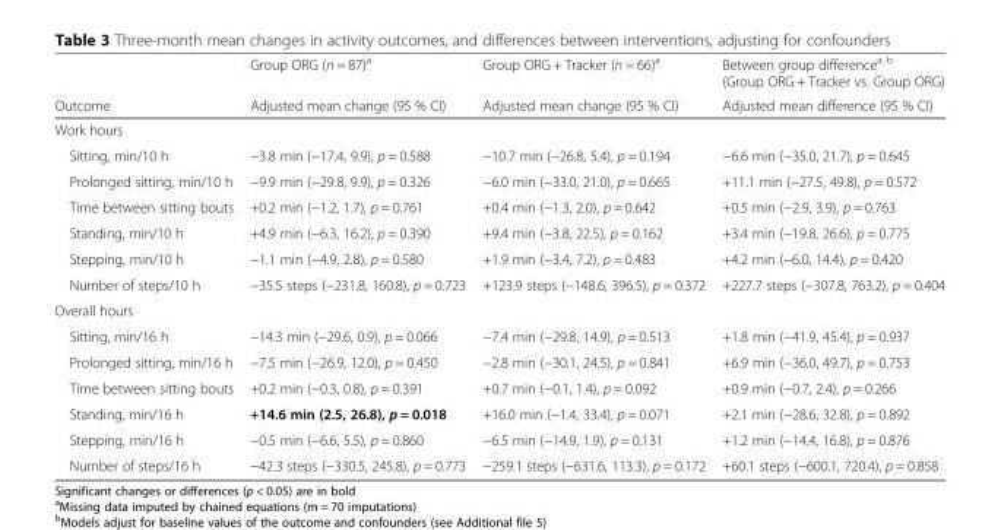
<table><thead><tr><td rowspan="2">Outcome</td><td rowspan="2">Group ORG (n = 87)<sup>a</sup> Adjusted mean change (95 % CI)</td><td rowspan="2">Group ORG + Tracker (n = 66)<sup>a</sup> Adjusted mean change (95 % CI)</td><td rowspan="2">Between group difference<sup>a b</sup> (Group ORG + Tracker vs. Group ORG) Adjusted mean difference (95 % CI)</td></tr><tr></tr></thead><tbody><tr><td colspan="4">Work hours</td></tr><tr><td>Sitting, min/10 h</td><td>−3.8 min (−17.4, 9.9), p = 0.588</td><td>−10.7 min (−26.8, 5.4), p = 0.194</td><td>−6.6 min (−35.0, 21.7), p = 0.645</td></tr><tr><td>Prolonged sitting, min/10 h</td><td>−9.9 min (−29.8, 9.9), p = 0.326</td><td>−6.0 min (−33.0, 21.0), p = 0.665</td><td>+11.1 min (−27.5, 49.8), p = 0.572</td></tr><tr><td>Time between sitting bouts</td><td>+0.2 min (−1.2, 1.7), p = 0.761</td><td>+0.4 min (−1.3, 2.0), p = 0.642</td><td>+0.5 min (−2.9, 3.9), p = 0.763</td></tr><tr><td>Standing, min/10 h</td><td>+4.9 min (−6.3, 16.2), p = 0.390</td><td>+9.4 min (−3.8, 22.5), p = 0.162</td><td>+3.4 min (−19.8, 26.6), p = 0.775</td></tr><tr><td>Stepping, min/10 h</td><td>−1.1 min (−4.9, 2.8), p = 0.580</td><td>+1.9 min (−3.4, 7.2), p = 0.483</td><td>+4.2 min (−6.0, 14.4), p = 0.420</td></tr><tr><td>Number of steps/10 h</td><td>−35.5 steps (−231.8, 160.8), p = 0.723</td><td>+123.9 steps (−148.6, 396.5), p = 0.372</td><td>+227.7 steps (−307.8, 763.2), p = 0.404</td></tr><tr><td colspan="4">Overall hours</td></tr><tr><td>Sitting, min/16 h</td><td>−14.3 min (−29.6, 0.9), p = 0.066</td><td>−7.4 min (−29.8, 14.9), p = 0.513</td><td>+1.8 min (−41.9, 45.4), p = 0.937</td></tr><tr><td>Prolonged sitting, min/16 h</td><td>−7.5 min (−26.9, 12.0), p = 0.450</td><td>−2.8 min (−30.1, 24.5), p = 0.841</td><td>+6.9 min (−36.0, 49.7), p = 0.753</td></tr><tr><td>Time between sitting bouts</td><td>+0.2 min (−0.3, 0.8), p = 0.391</td><td>+0.7 min (−0.1, 1.4), p = 0.092</td><td>+0.9 min (−0.7, 2.4), p = 0.266</td></tr><tr><td>Standing, min/16 h</td><td>+14.6 min (2.5, 26.8), p = 0.018</td><td>+16.0 min (−1.4, 33.4), p = 0.071</td><td>+2.1 min (−28.6, 32.8), p = 0.892</td></tr><tr><td>Stepping, min/16 h</td><td>−0.5 min (−6.6, 5.5), p = 0.860</td><td>−6.5 min (−14.9, 1.9), p = 0.131</td><td>+1.2 min (−14.4, 16.8), p = 0.876</td></tr><tr><td>Number of steps/16 h</td><td>−42.3 steps (−330.5, 245.8), p = 0.773</td><td>−259.1 steps (−631.6, 113.3), p = 0.172</td><td>+60.1 steps (−600.1, 720.4), p = 0.858</td></tr></tbody></table>